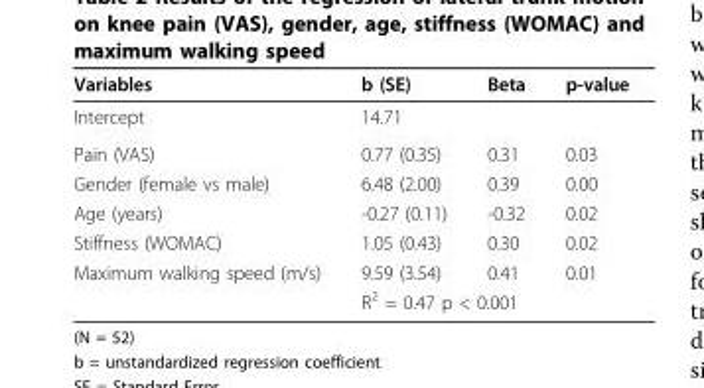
<table><thead><tr><td>Variables</td><td>b (SE)</td><td>Beta</td><td>p-value</td></tr></thead><tbody><tr><td>Intercept</td><td>14.71</td><td colspan="2"></td></tr><tr><td>Pain (VAS)</td><td>0.77 (0.35)</td><td>0.31</td><td>0.03</td></tr><tr><td>Gender (female vs male)</td><td>6.48 (2.00)</td><td>0.39</td><td>0.00</td></tr><tr><td>Age (years)</td><td>-0.27 (0.11)</td><td>-0.32</td><td>0.02</td></tr><tr><td>Stiffness (WOMAC)</td><td>1.05 (0.43)</td><td>0.30</td><td>0.02</td></tr><tr><td rowspan="2">Maximum walking speed (m/s)</td><td>9.59 (3.54)</td><td>0.41</td><td>0.01</td></tr><tr><td colspan="3">R<sup>2</sup> = 0.47 p &lt; 0.001</td></tr></tbody></table>